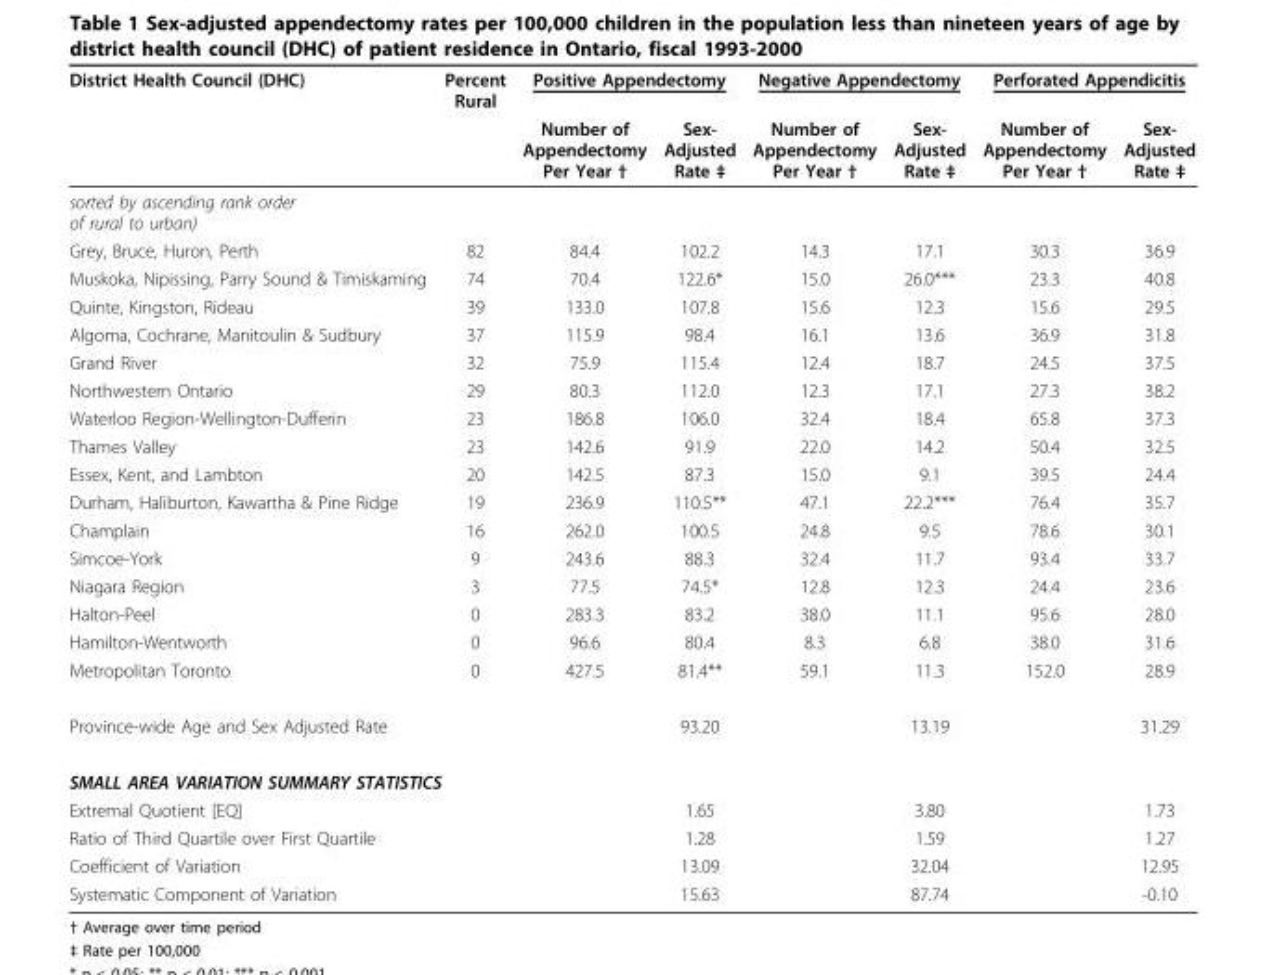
<table><thead><tr><td rowspan="2">District Health Council (DHC)</td><td rowspan="2">Percent Rural</td><td colspan="2">Positive Appendectomy</td><td colspan="2">Negative Appendectomy</td><td colspan="2">Perforated Appendicitis</td></tr><tr><td>Number of Appendectomy Per Year †</td><td>Sex- Adjusted Rate ‡</td><td>Number of Appendectomy Per Year †</td><td>Sex- Adjusted Rate ‡</td><td>Number of Appendectomy Per Year †</td><td>Sex- Adjusted Rate ‡</td></tr></thead><tbody><tr><td colspan="8">sorted by ascending rank order of rural to urban)</td></tr><tr><td>Grey, Bruce, Huron, Perth</td><td>82</td><td>84.4</td><td>102.2</td><td>14.3</td><td>17.1</td><td>30.3</td><td>36.9</td></tr><tr><td>Muskoka, Nipissing, Parry Sound &amp; Timiskaming</td><td>74</td><td>70.4</td><td>122.6*</td><td>15.0</td><td>26.0***</td><td>23.3</td><td>40.8</td></tr><tr><td>Quinte, Kingston, Rideau</td><td>39</td><td>133.0</td><td>107.8</td><td>15.6</td><td>12.3</td><td>15.6</td><td>29.5</td></tr><tr><td>Algoma, Cochrane, Manitoulin &amp; Sudbury</td><td>37</td><td>115.9</td><td>98.4</td><td>16.1</td><td>13.6</td><td>36.9</td><td>31.8</td></tr><tr><td>Grand River</td><td>32</td><td>75.9</td><td>115.4</td><td>12.4</td><td>18.7</td><td>24.5</td><td>37.5</td></tr><tr><td>Northwestern Ontario</td><td>29</td><td>80.3</td><td>112.0</td><td>12.3</td><td>17.1</td><td>27.3</td><td>38.2</td></tr><tr><td>Waterloo Region-Wellington-Dufferin</td><td>23</td><td>186.8</td><td>106.0</td><td>32.4</td><td>18.4</td><td>65.8</td><td>37.3</td></tr><tr><td>Thames Valley</td><td>23</td><td>142.6</td><td>91.9</td><td>22.0</td><td>14.2</td><td>50.4</td><td>32.5</td></tr><tr><td>Essex, Kent, and Lambton</td><td>20</td><td>142.5</td><td>87.3</td><td>15.0</td><td>9.1</td><td>39.5</td><td>24.4</td></tr><tr><td>Durham, Haliburton, Kawartha &amp; Pine Ridge</td><td>19</td><td>236.9</td><td>110.5**</td><td>47.1</td><td>22.2***</td><td>76.4</td><td>35.7</td></tr><tr><td>Champlain</td><td>16</td><td>262.0</td><td>100.5</td><td>24.8</td><td>9.5</td><td>78.6</td><td>30.1</td></tr><tr><td>Simcoe-York</td><td>9</td><td>243.6</td><td>88.3</td><td>32.4</td><td>11.7</td><td>93.4</td><td>33.7</td></tr><tr><td>Niagara Region</td><td>3</td><td>77.5</td><td>74.5*</td><td>12.8</td><td>12.3</td><td>24.4</td><td>23.6</td></tr><tr><td>Halton-Peel</td><td>0</td><td>283.3</td><td>83.2</td><td>38.0</td><td>11.1</td><td>95.6</td><td>28.0</td></tr><tr><td>Hamilton-Wentworth</td><td>0</td><td>96.6</td><td>80.4</td><td>8.3</td><td>6.8</td><td>38.0</td><td>31.6</td></tr><tr><td>Metropolitan Toronto</td><td>0</td><td>427.5</td><td>81.4**</td><td>59.1</td><td>11.3</td><td>152.0</td><td>28.9</td></tr><tr><td>Province-wide Age and Sex Adjusted Rate</td><td></td><td></td><td>93.20</td><td></td><td>13.19</td><td></td><td>31.29</td></tr><tr><td colspan="8">SMALL AREA VARIATION SUMMARY STATISTICS</td></tr><tr><td>Extremal Quotient [EQ]</td><td></td><td></td><td>1.65</td><td></td><td>3.80</td><td></td><td>1.73</td></tr><tr><td>Ratio of Third Quartile over First Quartile</td><td></td><td></td><td>1.28</td><td></td><td>1.59</td><td></td><td>1.27</td></tr><tr><td>Coefficient of Variation</td><td></td><td></td><td>13.09</td><td></td><td>32.04</td><td></td><td>12.95</td></tr><tr><td>Systematic Component of Variation</td><td></td><td></td><td>15.63</td><td></td><td>87.74</td><td></td><td>-0.10</td></tr></tbody></table>